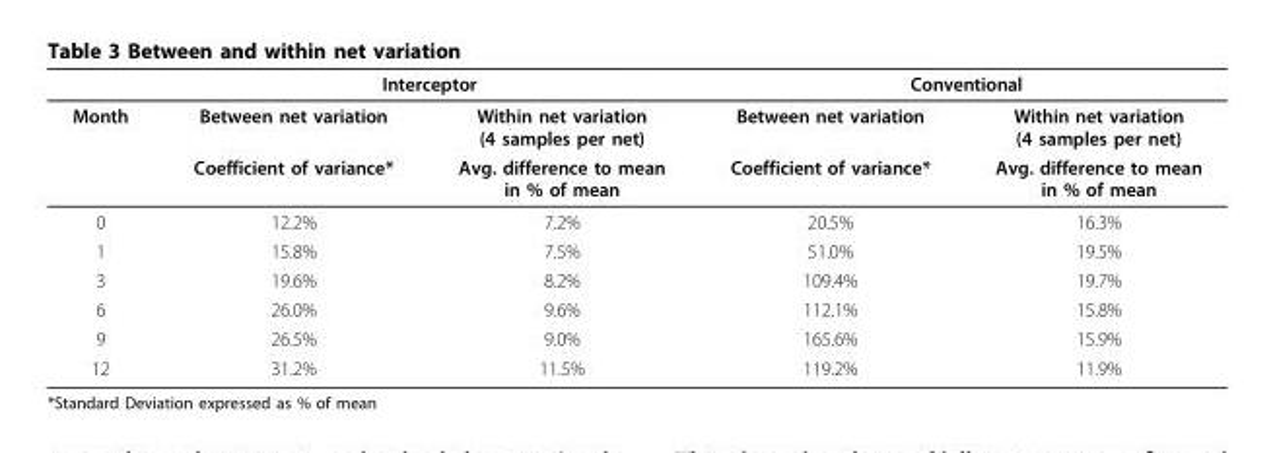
<table><thead><tr><td rowspan="2">Month</td><td colspan="2">Interceptor</td><td colspan="2">Conventional</td></tr><tr><td>Between net variation</td><td>Within net variation (4 samples per net)</td><td>Between net variation</td><td>Within net variation (4 samples per net)</td></tr></thead><tbody><tr><td></td><td>Coefficient of variance*</td><td>Avg. difference to mean in % of mean</td><td>Coefficient of variance*</td><td>Avg. difference to mean in % of mean</td></tr><tr><td>0</td><td>12.2%</td><td>7.2%</td><td>20.5%</td><td>16.3%</td></tr><tr><td>1</td><td>15.8%</td><td>7.5%</td><td>51.0%</td><td>19.5%</td></tr><tr><td>3</td><td>19.6%</td><td>8.2%</td><td>109.4%</td><td>19.7%</td></tr><tr><td>6</td><td>26.0%</td><td>9.6%</td><td>112.1%</td><td>15.8%</td></tr><tr><td>9</td><td>26.5%</td><td>9.0%</td><td>165.6%</td><td>15.9%</td></tr><tr><td>12</td><td>31.2%</td><td>11.5%</td><td>119.2%</td><td>11.9%</td></tr></tbody></table>